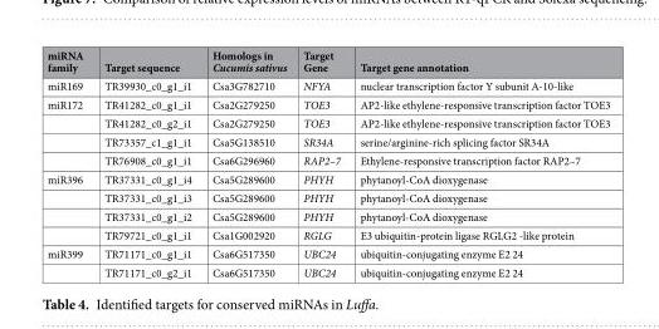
<table><thead><tr><td>miRNA family</td><td>Target sequence</td><td>Homologs in Cucumis sativus</td><td>Target Gene</td><td>Target gene annotation</td></tr></thead><tbody><tr><td>miR169</td><td>TR39930_c0_g1_i1</td><td>Csa3G782710</td><td>NFYA</td><td>nuclear transcription factor Y subunit A-10-like</td></tr><tr><td rowspan="4">miR172</td><td>TR41282_c0_g1_i1</td><td>Csa2G279250</td><td>TOE3</td><td>AP2-like ethylene-responsive transcription factor TOE3</td></tr><tr><td>TR41282_c0_g2_i1</td><td>Csa2G279250</td><td>TOE3</td><td>AP2-like ethylene-responsive transcription factor TOE3</td></tr><tr><td>TR73357_c1_g1_i1</td><td>Csa5G138510</td><td>SR34A</td><td>serine/arginine-rich splicing factor SR34A</td></tr><tr><td>TR76908_c0_g1_i1</td><td>Csa6G296960</td><td>RAP2–7</td><td>Ethylene-responsive transcription factor RAP2–7</td></tr><tr><td rowspan="4">miR396</td><td>TR37331_c0_g1_i4</td><td>Csa5G289600</td><td>PHYH</td><td>phytanoyl-CoA dioxygenase</td></tr><tr><td>TR37331_c0_g1_i3</td><td>Csa5G289600</td><td>PHYH</td><td>phytanoyl-CoA dioxygenase</td></tr><tr><td>TR37331_c0_g1_i2</td><td>Csa5G289600</td><td>PHYH</td><td>phytanoyl-CoA dioxygenase</td></tr><tr><td>TR79721_c0_g1_i1</td><td>Csa1G002920</td><td>RGLG</td><td>E3 ubiquitin-protein ligase RGLG2 -like protein</td></tr><tr><td rowspan="2">miR399</td><td>TR71171_c0_g1_i1</td><td>Csa6G517350</td><td>UBC24</td><td>ubiquitin-conjugating enzyme E2 24</td></tr><tr><td>TR71171_c0_g2_i1</td><td>Csa6G517350</td><td>UBC24</td><td>ubiquitin-conjugating enzyme E2 24</td></tr></tbody></table>